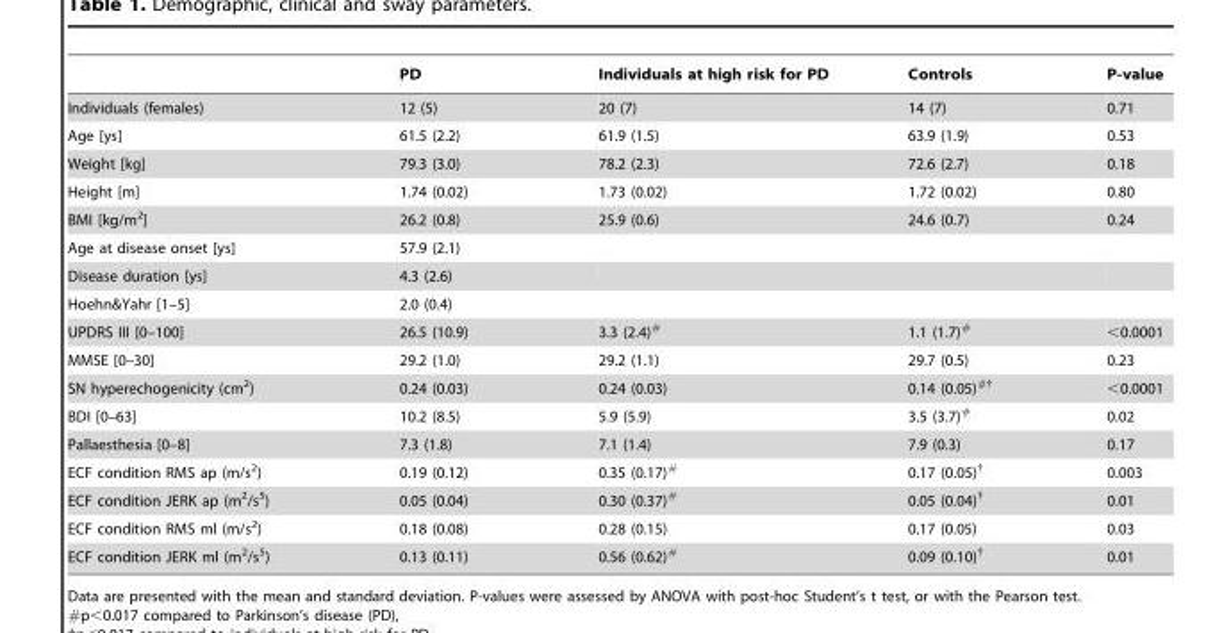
<table><thead><tr><td></td><td>PD</td><td>Individuals at high risk for PD</td><td>Controls</td><td>P-value</td></tr></thead><tbody><tr><td>Individuals (females)</td><td>12 (5)</td><td>20 (7)</td><td>14 (7)</td><td>0.71</td></tr><tr><td>Age [ys]</td><td>61.5 (2.2)</td><td>61.9 (1.5)</td><td>63.9 (1.9)</td><td>0.53</td></tr><tr><td>Weight [kg]</td><td>79.3 (3.0)</td><td>78.2 (2.3)</td><td>72.6 (2.7)</td><td>0.18</td></tr><tr><td>Height [m]</td><td>1.74 (0.02)</td><td>1.73 (0.02)</td><td>1.72 (0.02)</td><td>0.80</td></tr><tr><td>BMI [kg/m<sup>2</sup>]</td><td>26.2 (0.8)</td><td>25.9 (0.6)</td><td>24.6 (0.7)</td><td>0.24</td></tr><tr><td>Age at disease onset [ys]</td><td>57.9 (2.1)</td><td></td><td></td><td></td></tr><tr><td>Disease duration [ys]</td><td>4.3 (2.6)</td><td></td><td></td><td></td></tr><tr><td>Hoehn&amp;Yahr [1–5]</td><td>2.0 (0.4)</td><td></td><td></td><td></td></tr><tr><td>UPDRS III [0–100]</td><td>26.5 (10.9)</td><td>3.3 (2.4)#</td><td>1.1 (1.7)#</td><td>&lt;0.0001</td></tr><tr><td>MMSE [0–30]</td><td>29.2 (1.0)</td><td>29.2 (1.1)</td><td>29.7 (0.5)</td><td>0.23</td></tr><tr><td>SN hyperechogenicity (cm<sup>2</sup>)</td><td>0.24 (0.03)</td><td>0.24 (0.03)</td><td>0.14 (0.05)#†</td><td>&lt;0.0001</td></tr><tr><td>BDI [0–63]</td><td>10.2 (8.5)</td><td>5.9 (5.9)</td><td>3.5 (3.7)#</td><td>0.02</td></tr><tr><td>Pallaesthesia [0–8]</td><td>7.3 (1.8)</td><td>7.1 (1.4)</td><td>7.9 (0.3)</td><td>0.17</td></tr><tr><td>ECF condition RMS ap (m/s<sup>2</sup>)</td><td>0.19 (0.12)</td><td>0.35 (0.17)#</td><td>0.17 (0.05)†</td><td>0.003</td></tr><tr><td>ECF condition JERK ap (m<sup>2</sup>/s<sup>5</sup>)</td><td>0.05 (0.04)</td><td>0.30 (0.37)#</td><td>0.05 (0.04)†</td><td>0.01</td></tr><tr><td>ECF condition RMS ml (m/s<sup>2</sup>)</td><td>0.18 (0.08)</td><td>0.28 (0.15)</td><td>0.17 (0.05)</td><td>0.03</td></tr><tr><td>ECF condition JERK ml (m<sup>2</sup>/s<sup>5</sup>)</td><td>0.13 (0.11)</td><td>0.56 (0.62)#</td><td>0.09 (0.10)†</td><td>0.01</td></tr></tbody></table>